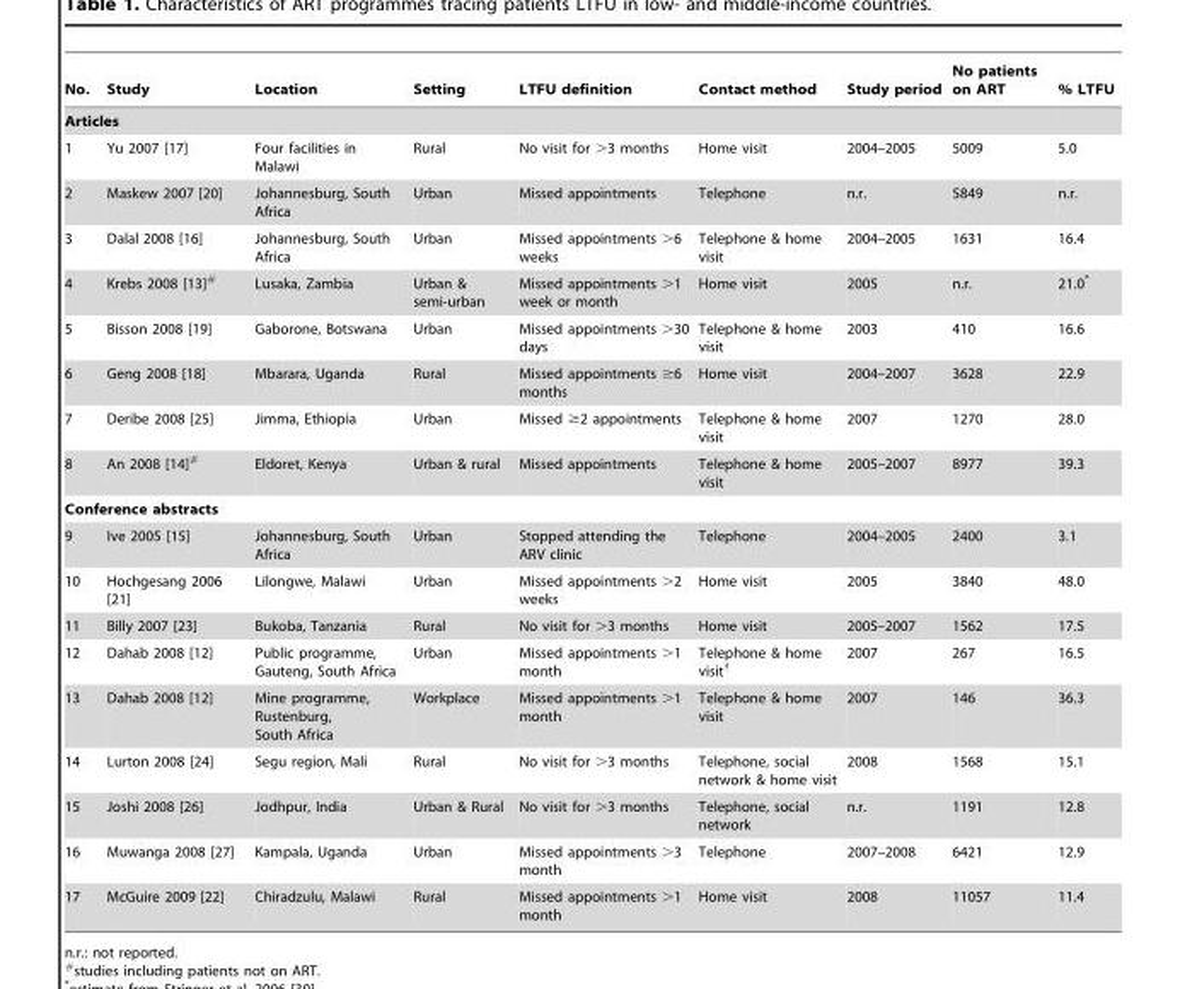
<table><thead><tr><td>No.</td><td>Study</td><td>Location</td><td>Setting</td><td>LTFU definition</td><td>Contact method</td><td>Study period</td><td>No patients on ART</td><td>% LTFU</td></tr></thead><tbody><tr><td colspan="9">Articles</td></tr><tr><td>1</td><td>Yu 2007 [17]</td><td>Four facilities in Malawi</td><td>Rural</td><td>No visit for &gt;3 months</td><td>Home visit</td><td>2004–2005</td><td>5009</td><td>5.0</td></tr><tr><td>2</td><td>Maskew 2007 [20]</td><td>Johannesburg, South Africa</td><td>Urban</td><td>Missed appointments</td><td>Telephone</td><td>n.r.</td><td>5849</td><td>n.r.</td></tr><tr><td>3</td><td>Dalal 2008 [16]</td><td>Johannesburg, South Africa</td><td>Urban</td><td>Missed appointments &gt;6 weeks</td><td>Telephone &amp; home visit</td><td>2004–2005</td><td>1631</td><td>16.4</td></tr><tr><td>4</td><td>Krebs 2008 [13]#</td><td>Lusaka, Zambia</td><td>Urban &amp; semi-urban</td><td>Missed appointments &gt;1 week or month</td><td>Home visit</td><td>2005</td><td>n.r.</td><td>21.0*</td></tr><tr><td>5</td><td>Bisson 2008 [19]</td><td>Gaborone, Botswana</td><td>Urban</td><td>Missed appointments &gt;30 days</td><td>Telephone &amp; home visit</td><td>2003</td><td>410</td><td>16.6</td></tr><tr><td>6</td><td>Geng 2008 [18]</td><td>Mbarara, Uganda</td><td>Rural</td><td>Missed appointments ≥6 months</td><td>Home visit</td><td>2004–2007</td><td>3628</td><td>22.9</td></tr><tr><td>7</td><td>Deribe 2008 [25]</td><td>Jimma, Ethiopia</td><td>Urban</td><td>Missed ≥2 appointments</td><td>Telephone &amp; home visit</td><td>2007</td><td>1270</td><td>28.0</td></tr><tr><td>8</td><td>An 2008 [14]#</td><td>Eldoret, Kenya</td><td>Urban &amp; rural</td><td>Missed appointments</td><td>Telephone &amp; home visit</td><td>2005–2007</td><td>8977</td><td>39.3</td></tr><tr><td colspan="9">Conference abstracts</td></tr><tr><td>9</td><td>Ive 2005 [15]</td><td>Johannesburg, South Africa</td><td>Urban</td><td>Stopped attending the ARV clinic</td><td>Telephone</td><td>2004–2005</td><td>2400</td><td>3.1</td></tr><tr><td>10</td><td>Hochgesang 2006 [21]</td><td>Lilongwe, Malawi</td><td>Urban</td><td>Missed appointments &gt;2 weeks</td><td>Home visit</td><td>2005</td><td>3840</td><td>48.0</td></tr><tr><td>11</td><td>Billy 2007 [23]</td><td>Bukoba, Tanzania</td><td>Rural</td><td>No visit for &gt;3 months</td><td>Home visit</td><td>2005–2007</td><td>1562</td><td>17.5</td></tr><tr><td>12</td><td>Dahab 2008 [12]</td><td>Public programme, Gauteng, South Africa</td><td>Urban</td><td>Missed appointments &gt;1 month</td><td>Telephone &amp; home visit<sup>†</sup></td><td>2007</td><td>267</td><td>16.5</td></tr><tr><td>13</td><td>Dahab 2008 [12]</td><td>Mine programme, Rustenburg, South Africa</td><td>Workplace</td><td>Missed appointments &gt;1 month</td><td>Telephone &amp; home visit</td><td>2007</td><td>146</td><td>36.3</td></tr><tr><td>14</td><td>Lurton 2008 [24]</td><td>Segu region, Mali</td><td>Rural</td><td>No visit for &gt;3 months</td><td>Telephone, social network &amp; home visit</td><td>2008</td><td>1568</td><td>15.1</td></tr><tr><td>15</td><td>Joshi 2008 [26]</td><td>Jodhpur, India</td><td>Urban &amp; Rural</td><td>No visit for &gt;3 months</td><td>Telephone, social network</td><td>n.r.</td><td>1191</td><td>12.8</td></tr><tr><td>16</td><td>Muwanga 2008 [27]</td><td>Kampala, Uganda</td><td>Urban</td><td>Missed appointments &gt;3 month</td><td>Telephone</td><td>2007–2008</td><td>6421</td><td>12.9</td></tr><tr><td>17</td><td>McGuire 2009 [22]</td><td>Chiradzulu, Malawi</td><td>Rural</td><td>Missed appointments &gt;1 month</td><td>Home visit</td><td>2008</td><td>11057</td><td>11.4</td></tr></tbody></table>